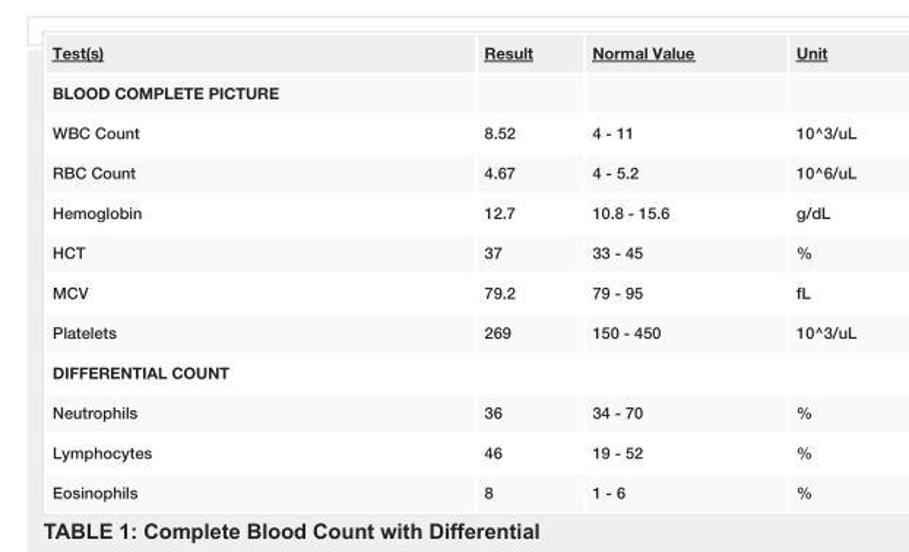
<table><tbody><tr><td>Test(s)</td><td>Result</td><td>Normal Value</td><td>Unit</td></tr><tr><td colspan="4">BLOOD COMPLETE PICTURE</td></tr><tr><td>WBC Count</td><td>8.52</td><td>4 - 11</td><td>10^3/uL</td></tr><tr><td>RBC Count</td><td>4.67</td><td>4 - 5.2</td><td>10^6/uL</td></tr><tr><td>Hemoglobin</td><td>12.7</td><td>10.8 - 15.6</td><td>g/dL</td></tr><tr><td>HCT</td><td>37</td><td>33 - 45</td><td>%</td></tr><tr><td>MCV</td><td>79.2</td><td>79 - 95</td><td>fL</td></tr><tr><td>Platelets</td><td>269</td><td>150 - 450</td><td>10^3/uL</td></tr><tr><td colspan="4">DIFFERENTIAL COUNT</td></tr><tr><td>Neutrophils</td><td>36</td><td>34 - 70</td><td>%</td></tr><tr><td>Lymphocytes</td><td>46</td><td>19 - 52</td><td>%</td></tr><tr><td>Eosinophils</td><td>8</td><td>1 - 6</td><td>%</td></tr></tbody></table>